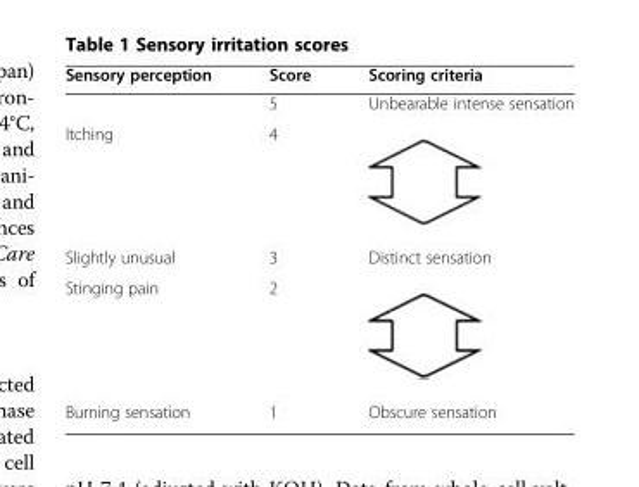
<table><thead><tr><td>Sensory perception</td><td>Score</td><td>Scoring criteria</td></tr></thead><tbody><tr><td></td><td>5</td><td>Unbearable intense sensation</td></tr><tr><td>Itching</td><td>4</td><td></td></tr><tr><td>Slightly unusual</td><td>3</td><td>Distinct sensation</td></tr><tr><td>Stinging pain</td><td>2</td><td></td></tr><tr><td>Burning sensation</td><td>1</td><td>Obscure sensation</td></tr></tbody></table>